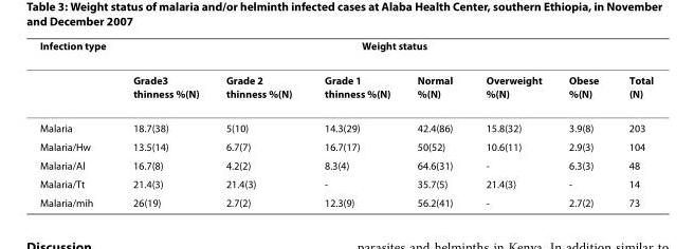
<table><thead><tr><td rowspan="2">Infection type</td><td colspan="7">Weight status</td></tr><tr><td>Grade3 thinness %(N)</td><td>Grade 2 thinness %(N)</td><td>Grade 1 thinness %(N)</td><td>Normal %(N)</td><td>Overweight %(N)</td><td>Obese %(N)</td><td>Total (N)</td></tr></thead><tbody><tr><td>Malaria</td><td>18.7(38)</td><td>5(10)</td><td>14.3(29)</td><td>42.4(86)</td><td>15.8(32)</td><td>3.9(8)</td><td>203</td></tr><tr><td>Malaria/Hw</td><td>13.5(14)</td><td>6.7(7)</td><td>16.7(17)</td><td>50(52)</td><td>10.6(11)</td><td>2.9(3)</td><td>104</td></tr><tr><td>Malaria/Al</td><td>16.7(8)</td><td>4.2(2)</td><td>8.3(4)</td><td>64.6(31)</td><td>-</td><td>6.3(3)</td><td>48</td></tr><tr><td>Malaria/Tt</td><td>21.4(3)</td><td>21.4(3)</td><td>-</td><td>35.7(5)</td><td>21.4(3)</td><td>-</td><td>14</td></tr><tr><td>Malaria/mih</td><td>26(19)</td><td>2.7(2)</td><td>12.3(9)</td><td>56.2(41)</td><td>-</td><td>2.7(2)</td><td>73</td></tr></tbody></table>